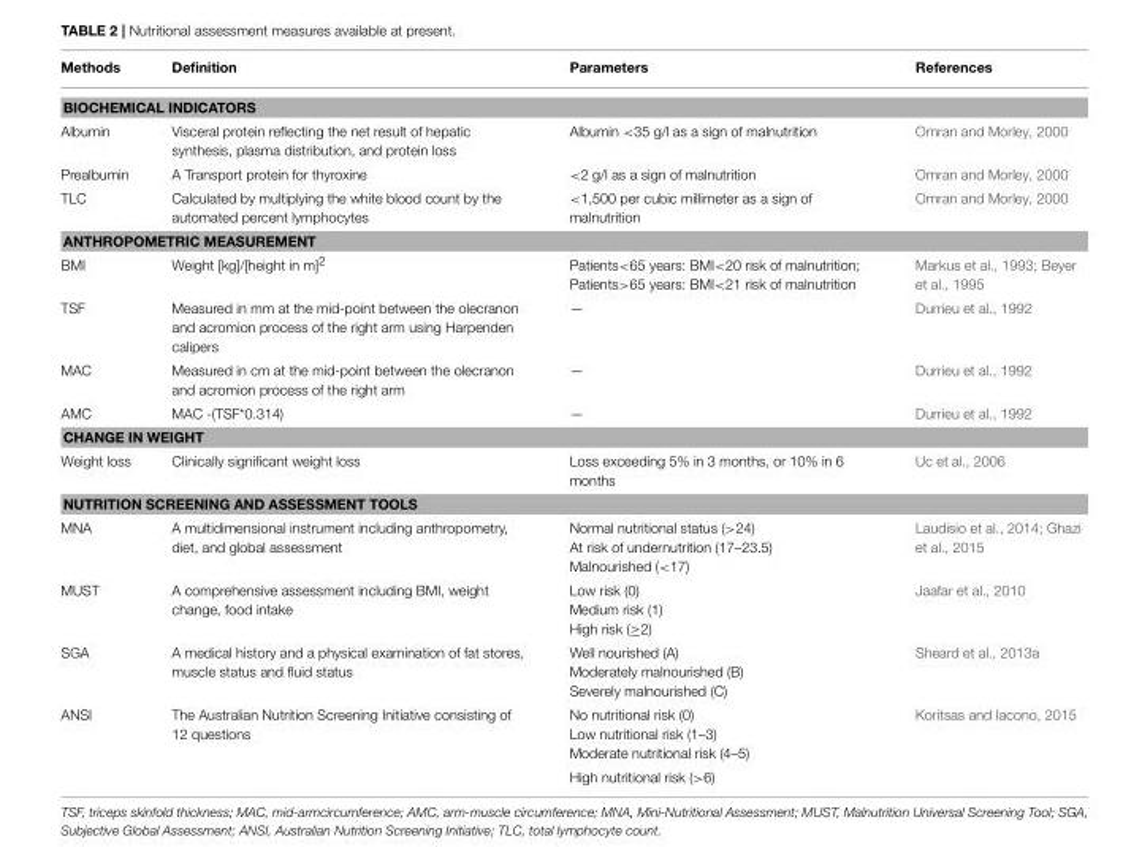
<table><thead><tr><td>Methods</td><td>Definition</td><td>Parameters</td><td>References</td></tr></thead><tbody><tr><td colspan="4">BIOCHEMICAL INDICATORS</td></tr><tr><td>Albumin</td><td>Visceral protein reflecting the net result of hepatic synthesis, plasma distribution, and protein loss</td><td>Albumin &lt;35 g/l as a sign of malnutrition</td><td>Omran and Morley, 2000</td></tr><tr><td>Prealbumin</td><td>A Transport protein for thyroxine</td><td>&lt;2 g/l as a sign of malnutrition</td><td>Omran and Morley, 2000</td></tr><tr><td>TLC</td><td>Calculated by multiplying the white blood count by the automated percent lymphocytes</td><td>&lt;1,500 per cubic millimeter as a sign of malnutrition</td><td>Omran and Morley, 2000</td></tr><tr><td colspan="4">ANTHROPOMETRIC MEASUREMENT</td></tr><tr><td>BMI</td><td>Weight [kg]/[height in m]<sup>2</sup></td><td>Patients&lt;65 years: BMI&lt;20 risk of malnutrition; Patients&gt;65 years: BMI&lt;21 risk of malnutrition</td><td>Markus et al., 1993; Beyer et al., 1995</td></tr><tr><td>TSF</td><td>Measured in mm at the mid-point between the olecranon and acromion process of the right arm using Harpenden calipers</td><td>—</td><td>Durrieu et al., 1992</td></tr><tr><td>MAC</td><td>Measured in cm at the mid-point between the olecranon and acromion process of the right arm</td><td>—</td><td>Durrieu et al., 1992</td></tr><tr><td>AMC</td><td>MAC -(TSF*0.314)</td><td>—</td><td>Durrieu et al., 1992</td></tr><tr><td colspan="4">CHANGE IN WEIGHT</td></tr><tr><td>Weight loss</td><td>Clinically significant weight loss</td><td>Loss exceeding 5% in 3 months, or 10% in 6 months</td><td>Uc et al., 2006</td></tr><tr><td colspan="4">NUTRITION SCREENING AND ASSESSMENT TOOLS</td></tr><tr><td>MNA</td><td>A multidimensional instrument including anthropometry, diet, and global assessment</td><td>Normal nutritional status (&gt;24) At risk of undernutrition (17–23.5) Malnourished (&lt;17)</td><td>Laudisio et al., 2014; Ghazi et al., 2015</td></tr><tr><td>MUST</td><td>A comprehensive assessment including BMI, weight change, food intake</td><td>Low risk (0) Medium risk (1) High risk (≥2)</td><td>Jaafar et al., 2010</td></tr><tr><td>SGA</td><td>A medical history and a physical examination of fat stores, muscle status and fluid status</td><td>Well nourished (A) Moderately malnourished (B) Severely malnourished (C)</td><td>Sheard et al., 2013a</td></tr><tr><td rowspan="2">ANSI</td><td>The Australian Nutrition Screening Initiative consisting of 12 questions</td><td>No nutritional risk (0) Low nutritional risk (1–3) Moderate nutritional risk (4–5)</td><td>Koritsas and Iacono, 2015</td></tr><tr><td></td><td>High nutritional risk (&gt;6)</td><td></td></tr></tbody></table>